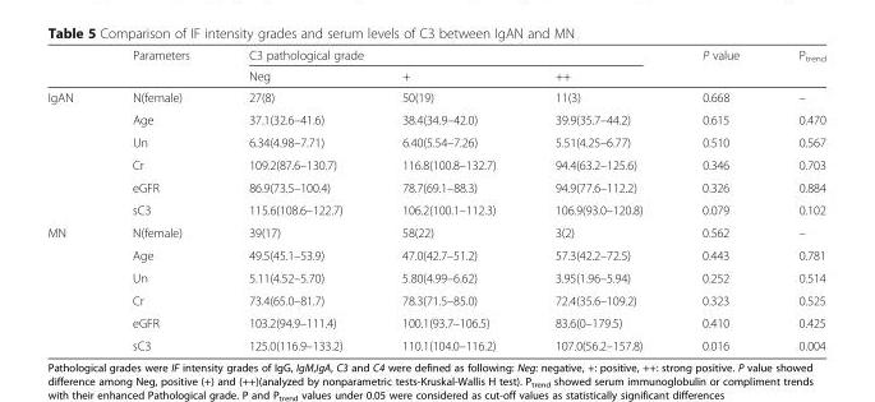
<table><thead><tr><td rowspan="2"></td><td rowspan="2">Parameters</td><td colspan="3">C3 pathological grade</td><td rowspan="2">P value</td><td rowspan="2">P<sub>trend</sub></td></tr><tr><td>Neg</td><td>+</td><td>++</td></tr></thead><tbody><tr><td rowspan="6">IgAN</td><td>N(female)</td><td>27(8)</td><td>50(19)</td><td>11(3)</td><td>0.668</td><td>–</td></tr><tr><td>Age</td><td>37.1(32.6–41.6)</td><td>38.4(34.9–42.0)</td><td>39.9(35.7–44.2)</td><td>0.615</td><td>0.470</td></tr><tr><td>Un</td><td>6.34(4.98–7.71)</td><td>6.40(5.54–7.26)</td><td>5.51(4.25–6.77)</td><td>0.510</td><td>0.567</td></tr><tr><td>Cr</td><td>109.2(87.6–130.7)</td><td>116.8(100.8–132.7)</td><td>94.4(63.2–125.6)</td><td>0.346</td><td>0.703</td></tr><tr><td>eGFR</td><td>86.9(73.5–100.4)</td><td>78.7(69.1–88.3)</td><td>94.9(77.6–112.2)</td><td>0.326</td><td>0.884</td></tr><tr><td>sC3</td><td>115.6(108.6–122.7)</td><td>106.2(100.1–112.3)</td><td>106.9(93.0–120.8)</td><td>0.079</td><td>0.102</td></tr><tr><td rowspan="6">MN</td><td>N(female)</td><td>39(17)</td><td>58(22)</td><td>3(2)</td><td>0.562</td><td>–</td></tr><tr><td>Age</td><td>49.5(45.1–53.9)</td><td>47.0(42.7–51.2)</td><td>57.3(42.2–72.5)</td><td>0.443</td><td>0.781</td></tr><tr><td>Un</td><td>5.11(4.52–5.70)</td><td>5.80(4.99–6.62)</td><td>3.95(1.96–5.94)</td><td>0.252</td><td>0.514</td></tr><tr><td>Cr</td><td>73.4(65.0–81.7)</td><td>78.3(71.5–85.0)</td><td>72.4(35.6–109.2)</td><td>0.323</td><td>0.525</td></tr><tr><td>eGFR</td><td>103.2(94.9–111.4)</td><td>100.1(93.7–106.5)</td><td>83.6(0–179.5)</td><td>0.410</td><td>0.425</td></tr><tr><td>sC3</td><td>125.0(116.9–133.2)</td><td>110.1(104.0–116.2)</td><td>107.0(56.2–157.8)</td><td>0.016</td><td>0.004</td></tr></tbody></table>